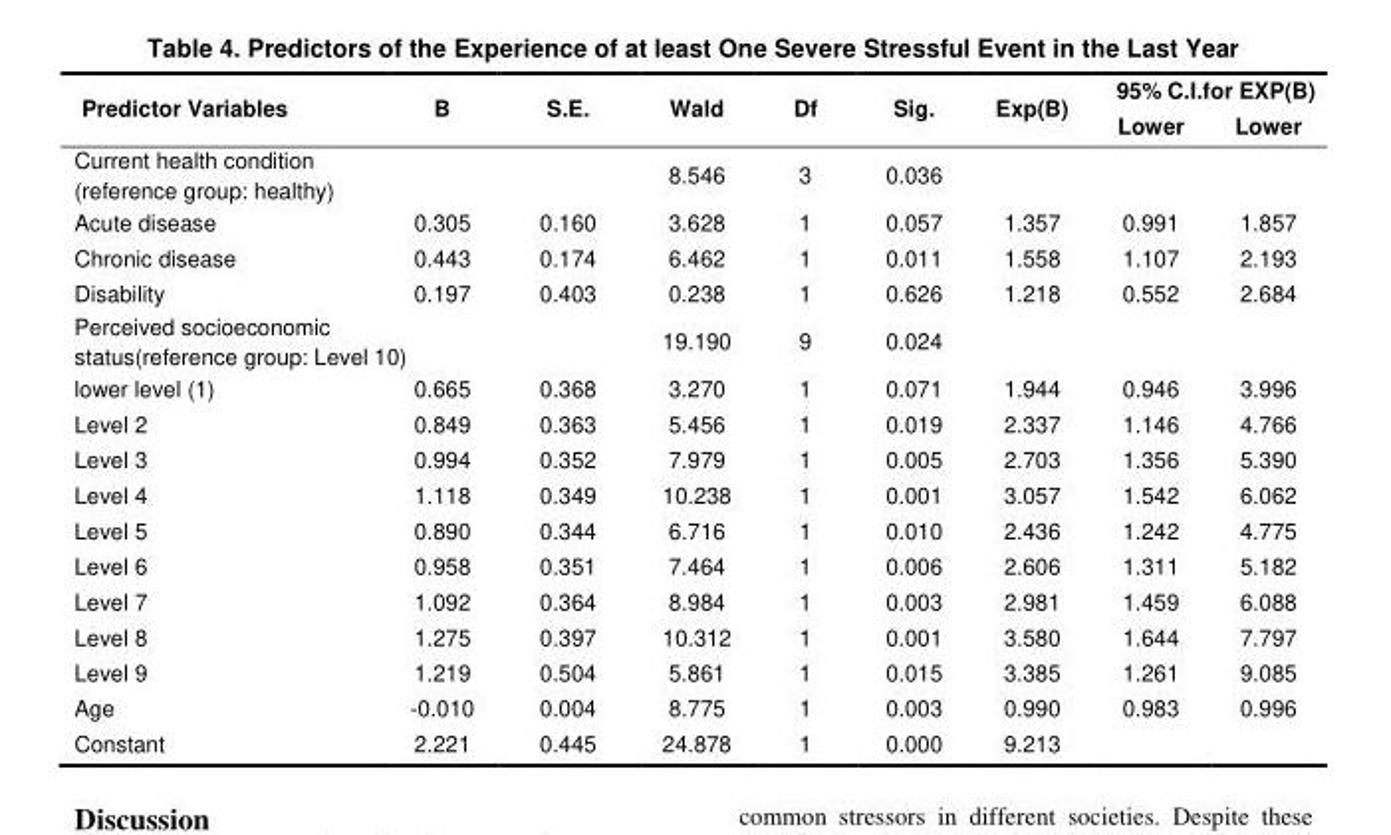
<table><thead><tr><td rowspan="2">Predictor Variables</td><td rowspan="2">B</td><td rowspan="2">S.E.</td><td rowspan="2">Wald</td><td rowspan="2">Df</td><td rowspan="2">Sig.</td><td rowspan="2">Exp(B)</td><td colspan="2">95% C.I.for EXP(B)</td></tr><tr><td>Lower</td><td>Lower</td></tr></thead><tbody><tr><td colspan="3">Current health condition (reference group: healthy)</td><td>8.546</td><td>3</td><td>0.036</td><td></td><td></td><td></td></tr><tr><td>Acute disease</td><td>0.305</td><td>0.160</td><td>3.628</td><td>1</td><td>0.057</td><td>1.357</td><td>0.991</td><td>1.857</td></tr><tr><td>Chronic disease</td><td>0.443</td><td>0.174</td><td>6.462</td><td>1</td><td>0.011</td><td>1.558</td><td>1.107</td><td>2.193</td></tr><tr><td>Disability</td><td>0.197</td><td>0.403</td><td>0.238</td><td>1</td><td>0.626</td><td>1.218</td><td>0.552</td><td>2.684</td></tr><tr><td colspan="2">Perceived socioeconomic status(reference group: Level 10)</td><td></td><td>19.190</td><td>9</td><td>0.024</td><td></td><td></td><td></td></tr><tr><td>lower level (1)</td><td>0.665</td><td>0.368</td><td>3.270</td><td>1</td><td>0.071</td><td>1.944</td><td>0.946</td><td>3.996</td></tr><tr><td>Level 2</td><td>0.849</td><td>0.363</td><td>5.456</td><td>1</td><td>0.019</td><td>2.337</td><td>1.146</td><td>4.766</td></tr><tr><td>Level 3</td><td>0.994</td><td>0.352</td><td>7.979</td><td>1</td><td>0.005</td><td>2.703</td><td>1.356</td><td>5.390</td></tr><tr><td>Level 4</td><td>1.118</td><td>0.349</td><td>10.238</td><td>1</td><td>0.001</td><td>3.057</td><td>1.542</td><td>6.062</td></tr><tr><td>Level 5</td><td>0.890</td><td>0.344</td><td>6.716</td><td>1</td><td>0.010</td><td>2.436</td><td>1.242</td><td>4.775</td></tr><tr><td>Level 6</td><td>0.958</td><td>0.351</td><td>7.464</td><td>1</td><td>0.006</td><td>2.606</td><td>1.311</td><td>5.182</td></tr><tr><td>Level 7</td><td>1.092</td><td>0.364</td><td>8.984</td><td>1</td><td>0.003</td><td>2.981</td><td>1.459</td><td>6.088</td></tr><tr><td>Level 8</td><td>1.275</td><td>0.397</td><td>10.312</td><td>1</td><td>0.001</td><td>3.580</td><td>1.644</td><td>7.797</td></tr><tr><td>Level 9</td><td>1.219</td><td>0.504</td><td>5.861</td><td>1</td><td>0.015</td><td>3.385</td><td>1.261</td><td>9.085</td></tr><tr><td>Age</td><td>-0.010</td><td>0.004</td><td>8.775</td><td>1</td><td>0.003</td><td>0.990</td><td>0.983</td><td>0.996</td></tr><tr><td>Constant</td><td>2.221</td><td>0.445</td><td>24.878</td><td>1</td><td>0.000</td><td>9.213</td><td></td><td></td></tr></tbody></table>